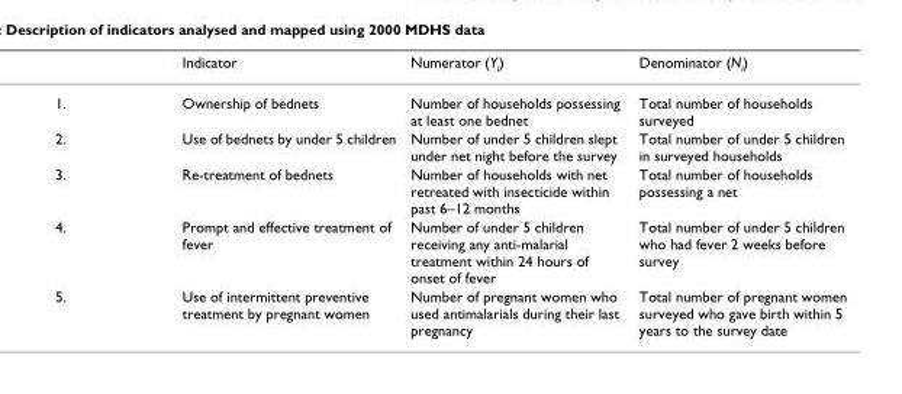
<table><thead><tr><td></td><td>Indicator</td><td>Numerator (Y<sub>i</sub>)</td><td>Denominator (N<sub>i</sub>)</td></tr></thead><tbody><tr><td>1.</td><td>Ownership of bednets</td><td>Number of households possessing at least one bednet</td><td>Total number of households surveyed</td></tr><tr><td>2.</td><td>Use of bednets by under 5 children</td><td>Number of under 5 children slept under net night before the survey</td><td>Total number of under 5 children in surveyed households</td></tr><tr><td>3.</td><td>Re-treatment of bednets</td><td>Number of households with net retreated with insecticide within past 6–12 months</td><td>Total number of households possessing a net</td></tr><tr><td>4.</td><td>Prompt and effective treatment of fever</td><td>Number of under 5 children receiving any anti-malarial treatment within 24 hours of onset of fever</td><td>Total number of under 5 children who had fever 2 weeks before survey</td></tr><tr><td>5.</td><td>Use of intermittent preventive treatment by pregnant women</td><td>Number of pregnant women who used antimalarials during their last pregnancy</td><td>Total number of pregnant women surveyed who gave birth within 5 years to the survey date</td></tr></tbody></table>